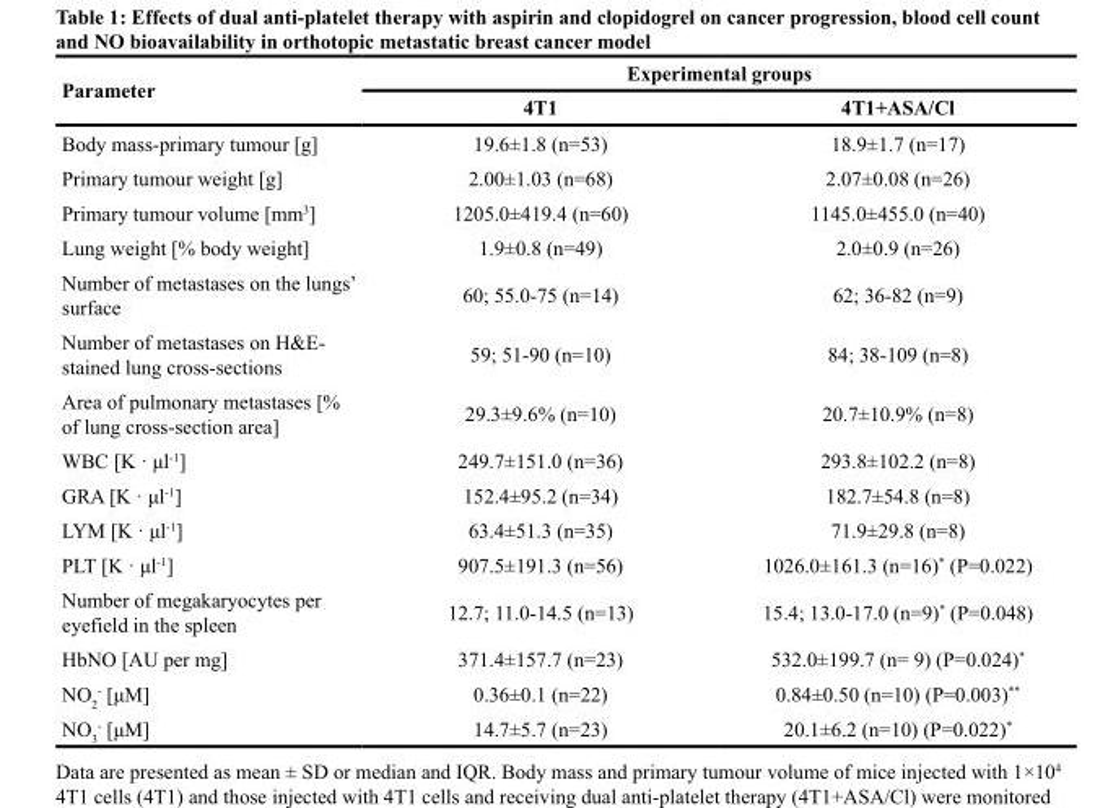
<table><thead><tr><td rowspan="2">Parameter</td><td colspan="2">Experimental groups</td></tr><tr><td>4T1</td><td>4T1+ASA/Cl</td></tr></thead><tbody><tr><td>Body mass-primary tumour [g]</td><td>19.6±1.8 (n=53)</td><td>18.9±1.7 (n=17)</td></tr><tr><td>Primary tumour weight [g]</td><td>2.00±1.03 (n=68)</td><td>2.07±0.08 (n=26)</td></tr><tr><td>Primary tumour volume [mm<sup>3</sup>]</td><td>1205.0±419.4 (n=60)</td><td>1145.0±455.0 (n=40)</td></tr><tr><td>Lung weight [% body weight]</td><td>1.9±0.8 (n=49)</td><td>2.0±0.9 (n=26)</td></tr><tr><td>Number of metastases on the lungs’ surface</td><td>60; 55.0-75 (n=14)</td><td>62; 36-82 (n=9)</td></tr><tr><td>Number of metastases on H&amp;E- stained lung cross-sections</td><td>59; 51-90 (n=10)</td><td>84; 38-109 (n=8)</td></tr><tr><td>Area of pulmonary metastases [% of lung cross-section area]</td><td>29.3±9.6% (n=10)</td><td>20.7±10.9% (n=8)</td></tr><tr><td>WBC [K · μl<sup>-1</sup>]</td><td>249.7±151.0 (n=36)</td><td>293.8±102.2 (n=8)</td></tr><tr><td>GRA [K · μl<sup>-1</sup>]</td><td>152.4±95.2 (n=34)</td><td>182.7±54.8 (n=8)</td></tr><tr><td>LYM [K · μl<sup>-1</sup>]</td><td>63.4±51.3 (n=35)</td><td>71.9±29.8 (n=8)</td></tr><tr><td>PLT [K · μl<sup>-1</sup>]</td><td>907.5±191.3 (n=56)</td><td>1026.0±161.3 (n=16)* (P=0.022)</td></tr><tr><td>Number of megakaryocytes per eyefield in the spleen</td><td>12.7; 11.0-14.5 (n=13)</td><td>15.4; 13.0-17.0 (n=9)* (P=0.048)</td></tr><tr><td>HbNO [AU per mg]</td><td>371.4±157.7 (n=23)</td><td>532.0±199.7 (n= 9) (P=0.024)*</td></tr><tr><td>NO<sub>2</sub> <sup>-</sup> [μM]</td><td>0.36±0.1 (n=22)</td><td>0.84±0.50 (n=10) (P=0.003)**</td></tr><tr><td>NO<sub>3</sub> <sup>-</sup> [μM]</td><td>14.7±5.7 (n=23)</td><td>20.1±6.2 (n=10) (P=0.022)*</td></tr></tbody></table>